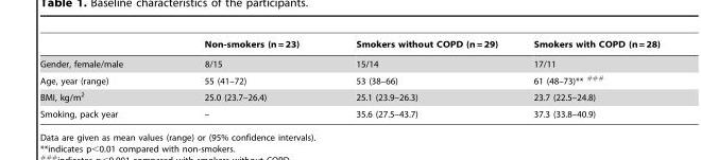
<table><thead><tr><td></td><td>Non-smokers (n = 23)</td><td>Smokers without COPD (n = 29)</td><td>Smokers with COPD (n = 28)</td></tr></thead><tbody><tr><td>Gender, female/male</td><td>8/15</td><td>15/14</td><td>17/11</td></tr><tr><td>Age, year (range)</td><td>55 (41–72)</td><td>53 (38–66)</td><td>61 (48–73)** ###</td></tr><tr><td>BMI, kg/m<sup>2</sup></td><td>25.0 (23.7–26.4)</td><td>25.1 (23.9–26.3)</td><td>23.7 (22.5–24.8)</td></tr><tr><td>Smoking, pack year</td><td>–</td><td>35.6 (27.5–43.7)</td><td>37.3 (33.8–40.9)</td></tr></tbody></table>